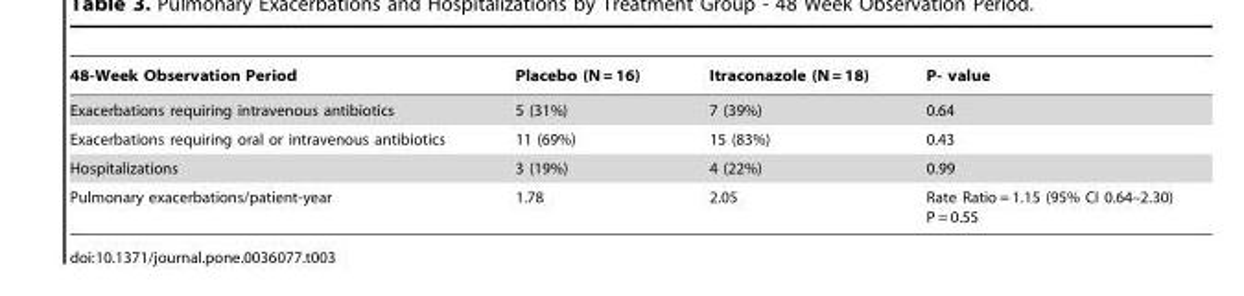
<table><thead><tr><td>48-Week Observation Period</td><td>Placebo (N = 16)</td><td>Itraconazole (N = 18)</td><td>P- value</td></tr></thead><tbody><tr><td>Exacerbations requiring intravenous antibiotics</td><td>5 (31%)</td><td>7 (39%)</td><td>0.64</td></tr><tr><td>Exacerbations requiring oral or intravenous antibiotics</td><td>11 (69%)</td><td>15 (83%)</td><td>0.43</td></tr><tr><td>Hospitalizations</td><td>3 (19%)</td><td>4 (22%)</td><td>0.99</td></tr><tr><td>Pulmonary exacerbations/patient-year</td><td>1.78</td><td>2.05</td><td>Rate Ratio = 1.15 (95% CI 0.64–2.30) P = 0.55</td></tr></tbody></table>